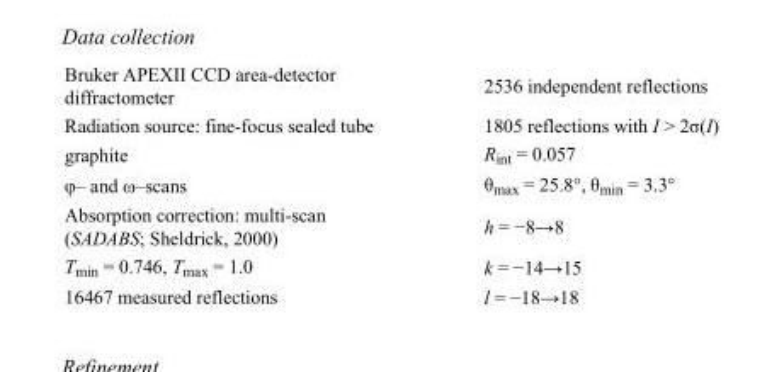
<table><tbody><tr><td>Bruker APEXII CCD area-detector diffractometer</td><td>2536 independent reflections</td></tr><tr><td>Radiation source: fine-focus sealed tube</td><td>1805 reflections with I &gt; 2σ(I)</td></tr><tr><td>graphite</td><td>R<sub>int</sub> = 0.057</td></tr><tr><td>φ– and ω–scans</td><td>θ<sub>max</sub> = 25.8°, θ<sub>min</sub> = 3.3°</td></tr><tr><td>Absorption correction: multi-scan (SADABS; Sheldrick, 2000)</td><td>h = −8→8</td></tr><tr><td>T<sub>min</sub> = 0.746, T<sub>max</sub> = 1.0</td><td>k = −14→15</td></tr><tr><td>16467 measured reflections</td><td>l = −18→18</td></tr></tbody></table>